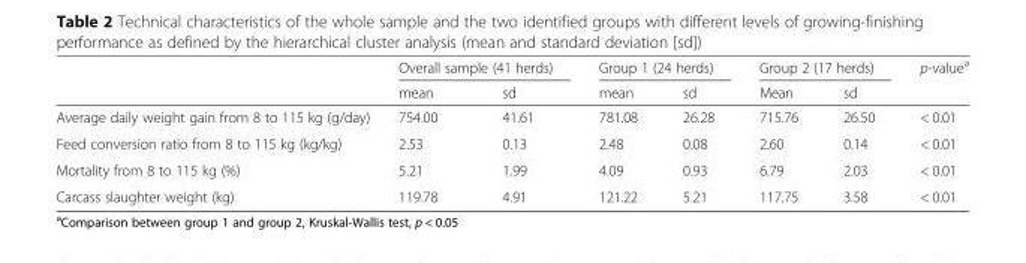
<table><thead><tr><td rowspan="2"></td><td colspan="2">Overall sample (41 herds)</td><td colspan="2">Group 1 (24 herds)</td><td colspan="2">Group 2 (17 herds)</td><td rowspan="2">p-value<sup>a</sup></td></tr><tr><td>mean</td><td>sd</td><td>mean</td><td>sd</td><td>Mean</td><td>sd</td></tr></thead><tbody><tr><td>Average daily weight gain from 8 to 115 kg (g/day)</td><td>754.00</td><td>41.61</td><td>781.08</td><td>26.28</td><td>715.76</td><td>26.50</td><td>&lt; 0.01</td></tr><tr><td>Feed conversion ratio from 8 to 115 kg (kg/kg)</td><td>2.53</td><td>0.13</td><td>2.48</td><td>0.08</td><td>2.60</td><td>0.14</td><td>&lt; 0.01</td></tr><tr><td>Mortality from 8 to 115 kg (%)</td><td>5.21</td><td>1.99</td><td>4.09</td><td>0.93</td><td>6.79</td><td>2.03</td><td>&lt; 0.01</td></tr><tr><td>Carcass slaughter weight (kg)</td><td>119.78</td><td>4.91</td><td>121.22</td><td>5.21</td><td>117.75</td><td>3.58</td><td>&lt; 0.01</td></tr></tbody></table>